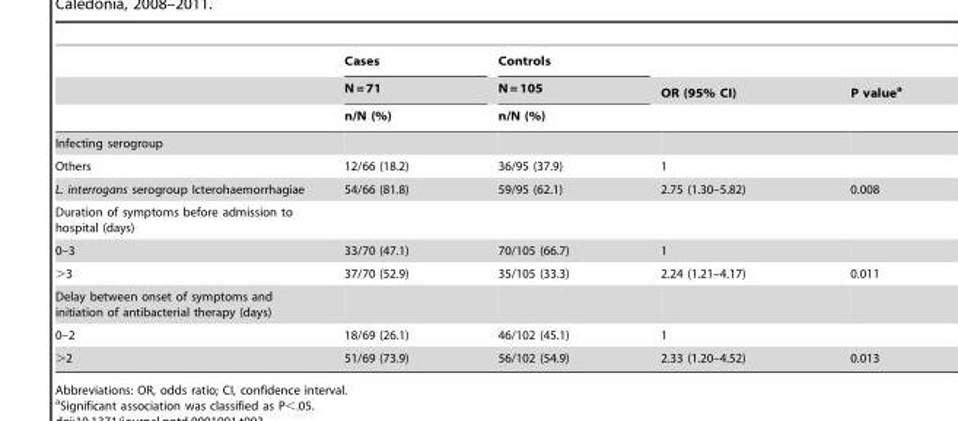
<table><thead><tr><td rowspan="3"></td><td rowspan="3">Cases N = 71 n/N (%)</td><td rowspan="3">Controls N = 105 n/N (%)</td><td rowspan="3">OR (95% CI)</td><td rowspan="3">P value<sup>a</sup></td></tr><tr></tr><tr></tr></thead><tbody><tr><td colspan="5">Infecting serogroup</td></tr><tr><td>Others</td><td>12/66 (18.2)</td><td>36/95 (37.9)</td><td>1</td><td></td></tr><tr><td>L. interrogans serogroup Icterohaemorrhagiae</td><td>54/66 (81.8)</td><td>59/95 (62.1)</td><td>2.75 (1.30–5.82)</td><td>0.008</td></tr><tr><td colspan="5">Duration of symptoms before admission to hospital (days)</td></tr><tr><td>0–3</td><td>33/70 (47.1)</td><td>70/105 (66.7)</td><td>1</td><td></td></tr><tr><td>&gt;3</td><td>37/70 (52.9)</td><td>35/105 (33.3)</td><td>2.24 (1.21–4.17)</td><td>0.011</td></tr><tr><td colspan="5">Delay between onset of symptoms and initiation of antibacterial therapy (days)</td></tr><tr><td>0–2</td><td>18/69 (26.1)</td><td>46/102 (45.1)</td><td>1</td><td></td></tr><tr><td>&gt;2</td><td>51/69 (73.9)</td><td>56/102 (54.9)</td><td>2.33 (1.20–4.52)</td><td>0.013</td></tr></tbody></table>